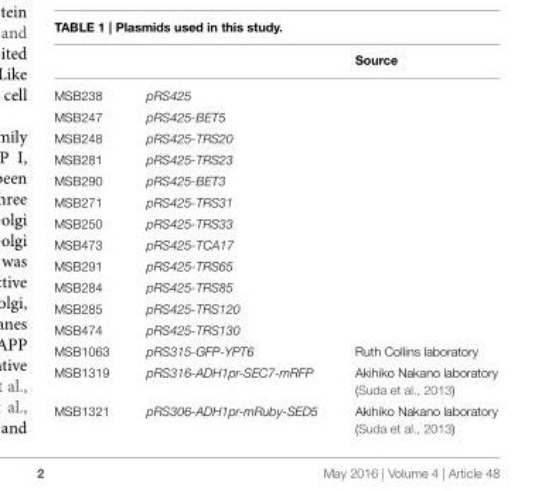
<table><thead><tr><td></td><td></td><td>Source</td></tr></thead><tbody><tr><td>MSB238</td><td>pRS425</td><td></td></tr><tr><td>MSB247</td><td>pRS425-BET5</td><td></td></tr><tr><td>MSB248</td><td>pRS425-TRS20</td><td></td></tr><tr><td>MSB281</td><td>pRS425-TRS23</td><td></td></tr><tr><td>MSB290</td><td>pRS425-BET3</td><td></td></tr><tr><td>MSB271</td><td>pRS425-TRS31</td><td></td></tr><tr><td>MSB250</td><td>pRS425-TRS33</td><td></td></tr><tr><td>MSB473</td><td>pRS425-TCA17</td><td></td></tr><tr><td>MSB291</td><td>pRS425-TRS65</td><td></td></tr><tr><td>MSB284</td><td>pRS425-TRS85</td><td></td></tr><tr><td>MSB285</td><td>pRS425-TRS120</td><td></td></tr><tr><td>MSB474</td><td>pRS425-TRS130</td><td></td></tr><tr><td>MSB1063</td><td>pRS315-GFP-YPT6</td><td>Ruth Collins laboratory</td></tr><tr><td>MSB1319</td><td>pRS316-ADH1pr-SEC7-mRFP</td><td>Akihiko Nakano laboratory (Suda et al., 2013)</td></tr><tr><td>MSB1321</td><td>pRS306-ADH1pr-mRuby-SED5</td><td>Akihiko Nakano laboratory (Suda et al., 2013)</td></tr></tbody></table>